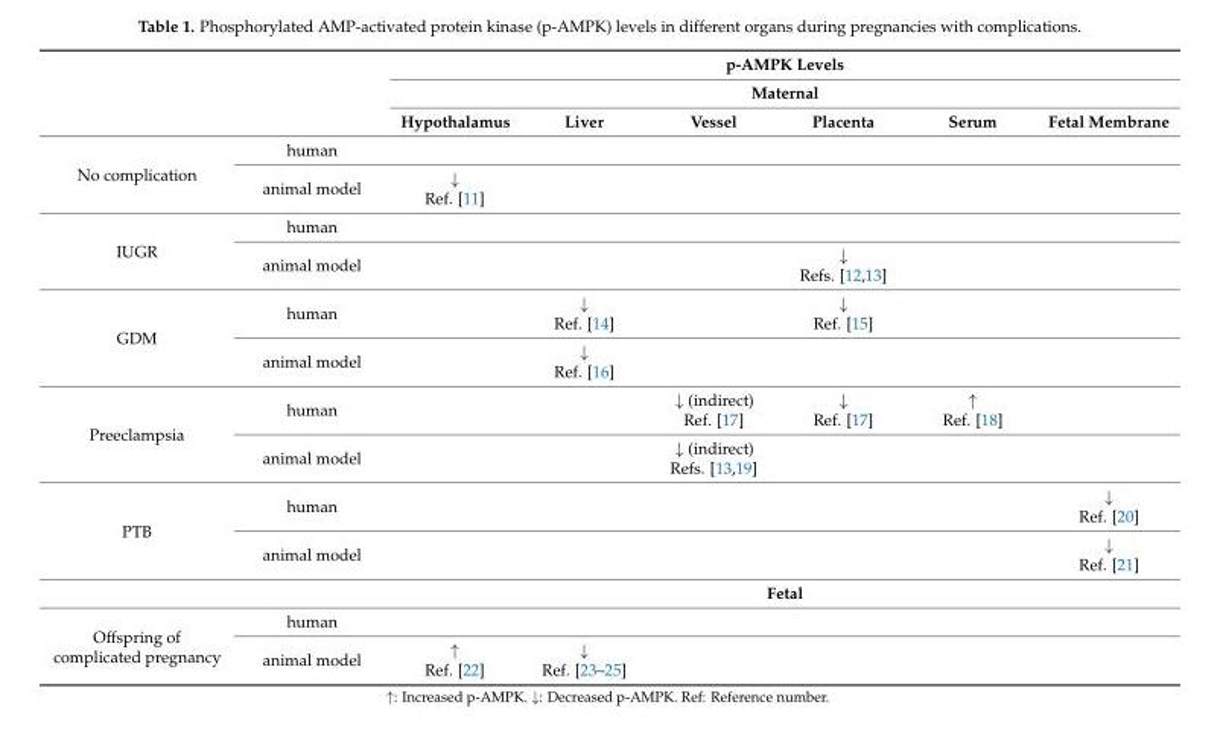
<table><thead><tr><td rowspan="3"></td><td rowspan="3"></td><td rowspan="2" colspan="6">p-AMPK Levels Maternal</td></tr><tr></tr><tr><td>Hypothalamus</td><td>Liver</td><td>Vessel</td><td>Placenta</td><td>Serum</td><td>Fetal Membrane</td></tr></thead><tbody><tr><td rowspan="2">No complication</td><td>human</td><td></td><td></td><td></td><td></td><td></td><td></td></tr><tr><td>animal model</td><td>↓ Ref. [11]</td><td></td><td></td><td></td><td></td><td></td></tr><tr><td rowspan="2">IUGR</td><td>human</td><td></td><td></td><td></td><td></td><td></td><td></td></tr><tr><td>animal model</td><td></td><td></td><td></td><td>↓ Refs. [12,13]</td><td></td><td></td></tr><tr><td rowspan="2">GDM</td><td>human</td><td></td><td>↓ Ref. [14]</td><td></td><td>↓ Ref. [15]</td><td></td><td></td></tr><tr><td>animal model</td><td></td><td>↓ Ref. [16]</td><td></td><td></td><td></td><td></td></tr><tr><td rowspan="2">Preeclampsia</td><td>human</td><td></td><td></td><td>↓ (indirect) Ref. [17]</td><td>↓ Ref. [17]</td><td>↑ Ref. [18]</td><td></td></tr><tr><td>animal model</td><td></td><td></td><td>↓ (indirect) Refs. [13,19]</td><td></td><td></td><td></td></tr><tr><td rowspan="2">PTB</td><td>human</td><td></td><td></td><td></td><td></td><td></td><td>↓ Ref. [20]</td></tr><tr><td>animal model</td><td></td><td></td><td></td><td></td><td></td><td>↓ Ref. [21]</td></tr><tr><td colspan="2"></td><td colspan="6">Fetal</td></tr><tr><td rowspan="2">Offspring of complicated pregnancy</td><td>human</td><td></td><td></td><td></td><td></td><td></td><td></td></tr><tr><td>animal model</td><td>↑ Ref. [22]</td><td>↓ Ref. [23–25]</td><td></td><td></td><td></td><td></td></tr></tbody></table>